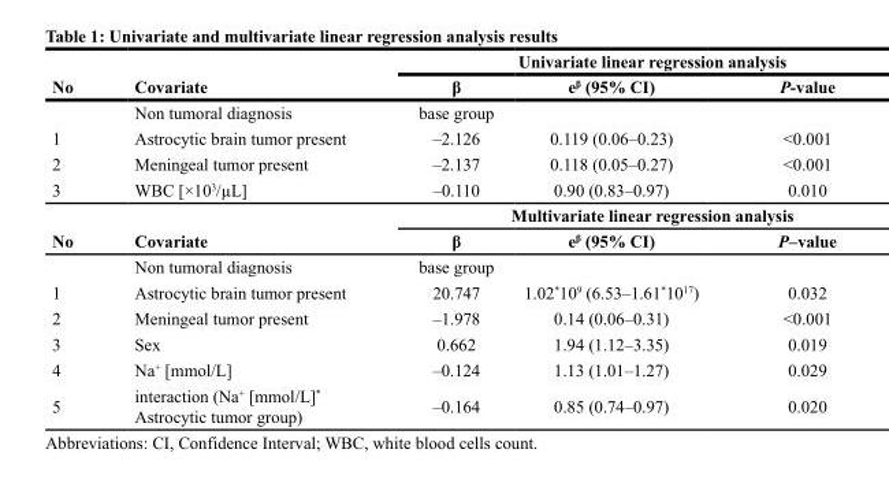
<table><thead><tr><td rowspan="2">No</td><td rowspan="2">Covariate</td><td colspan="3">Univariate linear regression analysis</td></tr><tr><td>β</td><td>e<sup>β</sup> (95% CI)</td><td>P-value</td></tr></thead><tbody><tr><td></td><td>Non tumoral diagnosis</td><td>base group</td><td></td><td></td></tr><tr><td>1</td><td>Astrocytic brain tumor present</td><td>–2.126</td><td>0.119 (0.06–0.23)</td><td>&lt;0.001</td></tr><tr><td>2</td><td>Meningeal tumor present</td><td>–2.137</td><td>0.118 (0.05–0.27)</td><td>&lt;0.001</td></tr><tr><td rowspan="2">3</td><td>WBC [×10<sup>3</sup>/µL]</td><td>–0.110</td><td>0.90 (0.83–0.97)</td><td>0.010</td></tr><tr><td></td><td colspan="3">Multivariate linear regression analysis</td></tr><tr><td rowspan="2">No</td><td>Covariate</td><td>β</td><td>e<sup>β</sup> (95% CI)</td><td>P–value</td></tr><tr><td>Non tumoral diagnosis</td><td>base group</td><td></td><td></td></tr><tr><td>1</td><td>Astrocytic brain tumor present</td><td>20.747</td><td>1.02*10<sup>9</sup> (6.53–1.61*10<sup>17</sup>)</td><td>0.032</td></tr><tr><td>2</td><td>Meningeal tumor present</td><td>–1.978</td><td>0.14 (0.06–0.31)</td><td>&lt;0.001</td></tr><tr><td>3</td><td>Sex</td><td>0.662</td><td>1.94 (1.12–3.35)</td><td>0.019</td></tr><tr><td>4</td><td>Na<sup>+</sup> [mmol/L]</td><td>–0.124</td><td>1.13 (1.01–1.27)</td><td>0.029</td></tr><tr><td>5</td><td>interaction (Na<sup>+</sup> [mmol/L]* Astrocytic tumor group)</td><td>–0.164</td><td>0.85 (0.74–0.97)</td><td>0.020</td></tr></tbody></table>